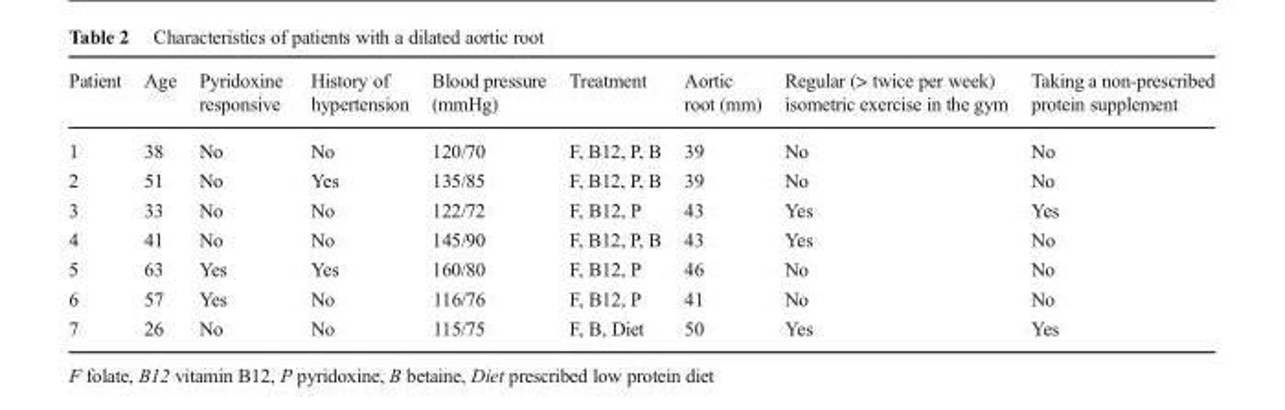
<table><thead><tr><td>Patient</td><td>Age</td><td>Pyridoxine responsive</td><td>History of hypertension</td><td>Blood pressure (mmHg)</td><td>Treatment</td><td>Aortic root (mm)</td><td>Regular (&gt; twice per week) isometric exercise in the gym</td><td>Taking a non-prescribed protein supplement</td></tr></thead><tbody><tr><td>1</td><td>38</td><td>No</td><td>No</td><td>120/70</td><td>F, B12, P, B</td><td>39</td><td>No</td><td>No</td></tr><tr><td>2</td><td>51</td><td>No</td><td>Yes</td><td>135/85</td><td>F, B12, P, B</td><td>39</td><td>No</td><td>No</td></tr><tr><td>3</td><td>33</td><td>No</td><td>No</td><td>122/72</td><td>F, B12, P</td><td>43</td><td>Yes</td><td>Yes</td></tr><tr><td>4</td><td>41</td><td>No</td><td>No</td><td>145/90</td><td>F, B12, P, B</td><td>43</td><td>Yes</td><td>No</td></tr><tr><td>5</td><td>63</td><td>Yes</td><td>Yes</td><td>160/80</td><td>F, B12, P</td><td>46</td><td>No</td><td>No</td></tr><tr><td>6</td><td>57</td><td>Yes</td><td>No</td><td>116/76</td><td>F, B12, P</td><td>41</td><td>No</td><td>No</td></tr><tr><td>7</td><td>26</td><td>No</td><td>No</td><td>115/75</td><td>F, B, Diet</td><td>50</td><td>Yes</td><td>Yes</td></tr></tbody></table>